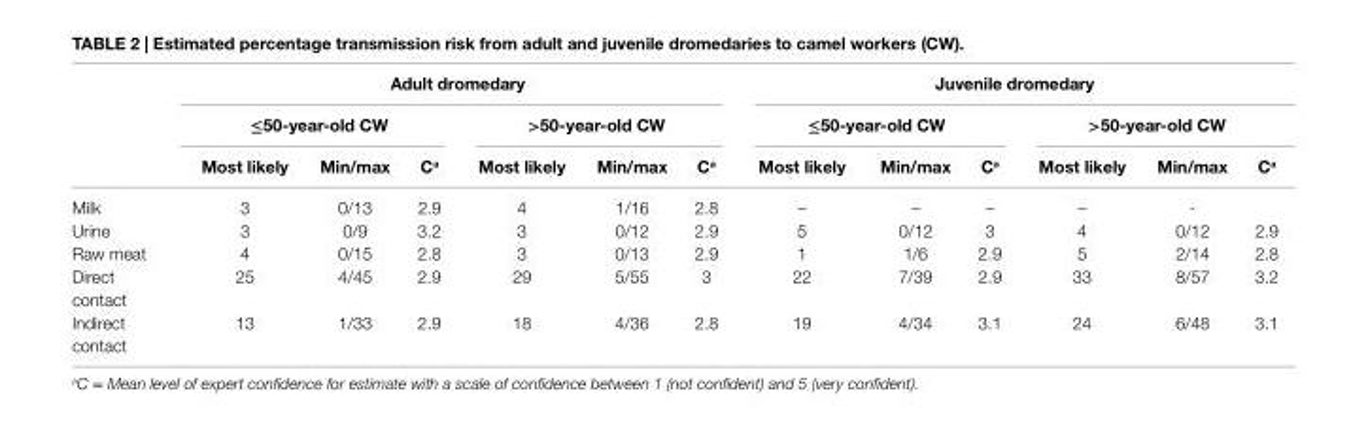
<table><thead><tr><td rowspan="3"></td><td colspan="6">adult dromedary</td><td colspan="6">Juvenile dromedary</td></tr><tr><td colspan="3">≤50-year-old cW</td><td colspan="3">&gt;50-year-old cW</td><td colspan="3">≤50-year-old cW</td><td colspan="3">&gt;50-year-old cW</td></tr><tr><td>Most likely</td><td>Min/max</td><td>c<sup>a</sup></td><td>Most likely</td><td>Min/max</td><td>c<sup>a</sup></td><td>Most likely</td><td>Min/max</td><td>c<sup>a</sup></td><td>Most likely</td><td>Min/max</td><td>c<sup>a</sup></td></tr></thead><tbody><tr><td>Milk</td><td>3</td><td>0/13</td><td>2.9</td><td>4</td><td>1/16</td><td>2.8</td><td>–</td><td>–</td><td>–</td><td>–</td><td>-</td><td></td></tr><tr><td>Urine</td><td>3</td><td>0/9</td><td>3.2</td><td>3</td><td>0/12</td><td>2.9</td><td>5</td><td>0/12</td><td>3</td><td>4</td><td>0/12</td><td>2.9</td></tr><tr><td>Raw meat</td><td>4</td><td>0/15</td><td>2.8</td><td>3</td><td>0/13</td><td>2.9</td><td>1</td><td>1/6</td><td>2.9</td><td>5</td><td>2/14</td><td>2.8</td></tr><tr><td>Direct contact</td><td>25</td><td>4/45</td><td>2.9</td><td>29</td><td>5/55</td><td>3</td><td>22</td><td>7/39</td><td>2.9</td><td>33</td><td>8/57</td><td>3.2</td></tr><tr><td>Indirect contact</td><td>13</td><td>1/33</td><td>2.9</td><td>18</td><td>4/36</td><td>2.8</td><td>19</td><td>4/34</td><td>3.1</td><td>24</td><td>6/48</td><td>3.1</td></tr></tbody></table>